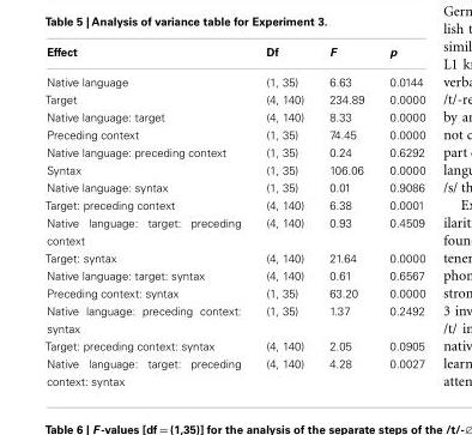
<table><thead><tr><td>Effect</td><td>Df</td><td>F</td><td>p</td></tr></thead><tbody><tr><td>Native language</td><td>(1, 35)</td><td>6.63</td><td>0.0144</td></tr><tr><td>Target</td><td>(4, 140)</td><td>234.89</td><td>0.0000</td></tr><tr><td>Native language: target</td><td>(4, 140)</td><td>8.33</td><td>0.0000</td></tr><tr><td>Preceding context</td><td>(1, 35)</td><td>74.45</td><td>0.0000</td></tr><tr><td>Native language: preceding context</td><td>(1, 35)</td><td>0.24</td><td>0.6292</td></tr><tr><td>Syntax</td><td>(1, 35)</td><td>106.06</td><td>0.0000</td></tr><tr><td>Native language: syntax</td><td>(1, 35)</td><td>0.01</td><td>0.9086</td></tr><tr><td>Target: preceding context</td><td>(4, 140)</td><td>6.38</td><td>0.0001</td></tr><tr><td>Native language: target: preceding context</td><td>(4, 140)</td><td>0.93</td><td>0.4509</td></tr><tr><td>Target: syntax</td><td>(4, 140)</td><td>21.64</td><td>0.0000</td></tr><tr><td>Native language: target: syntax</td><td>(4, 140)</td><td>0.61</td><td>0.6567</td></tr><tr><td>Preceding context: syntax</td><td>(1, 35)</td><td>63.20</td><td>0.0000</td></tr><tr><td>Native language: preceding context: syntax</td><td>(1, 35)</td><td>1.37</td><td>0.2492</td></tr><tr><td>Target: preceding context: syntax</td><td>(4, 140)</td><td>2.05</td><td>0.0905</td></tr><tr><td>Native language: target: preceding context: syntax</td><td>(4, 140)</td><td>4.28</td><td>0.0027</td></tr></tbody></table>